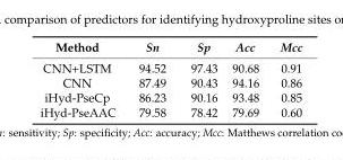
<table><thead><tr><td>Method</td><td>Sn</td><td>Sp</td><td>Acc</td><td>Mcc</td></tr></thead><tbody><tr><td>CNN+LSTM</td><td>94.52</td><td>97.43</td><td>90.68</td><td>0.91</td></tr><tr><td>CNN</td><td>87.49</td><td>90.43</td><td>94.16</td><td>0.86</td></tr><tr><td>iHyd-PseCp</td><td>86.23</td><td>90.16</td><td>93.48</td><td>0.85</td></tr><tr><td>iHyd-PseAAC</td><td>79.58</td><td>78.42</td><td>79.69</td><td>0.60</td></tr></tbody></table>